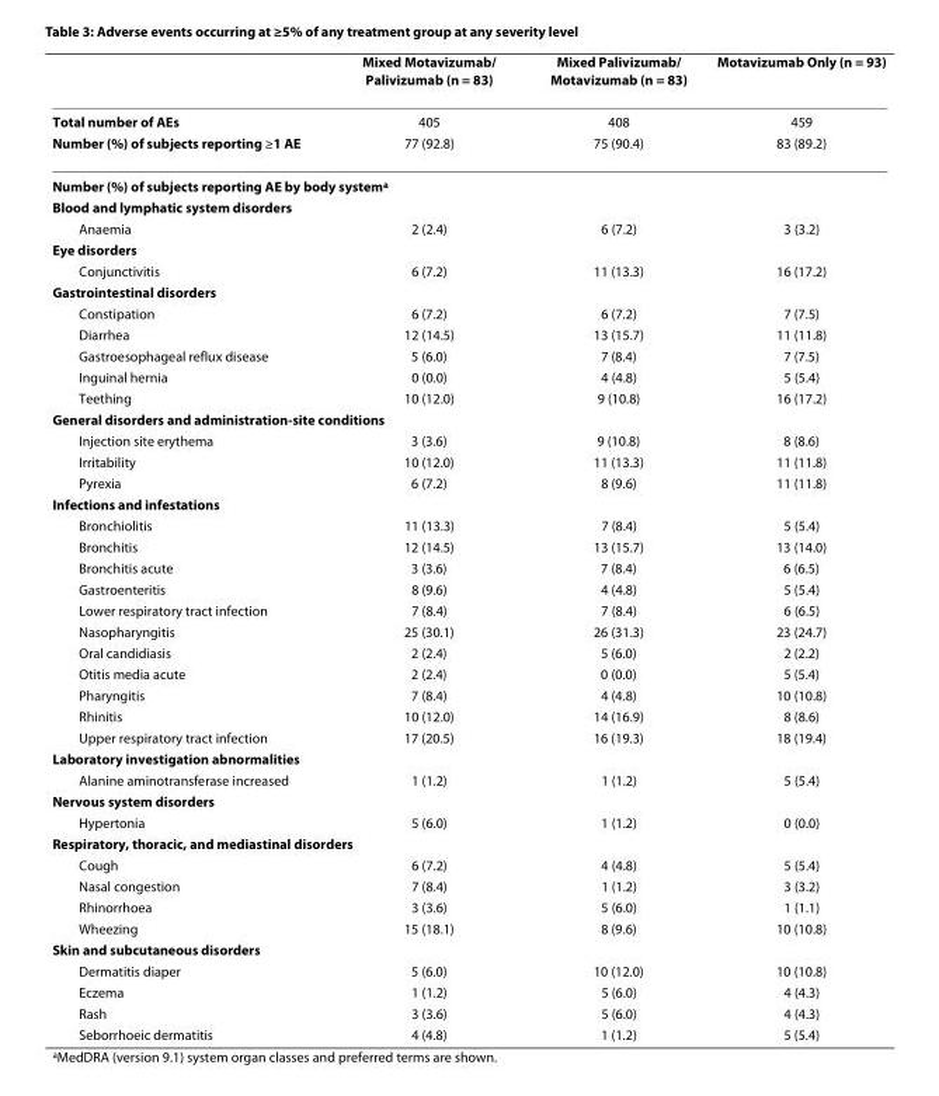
<table><thead><tr><td></td><td>Mixed Motavizumab/ Palivizumab (n = 83)</td><td>Mixed Palivizumab/ Motavizumab (n = 83)</td><td>Motavizumab Only (n = 93)</td></tr></thead><tbody><tr><td>Total number of AEs</td><td>405</td><td>408</td><td>459</td></tr><tr><td>Number (%) of subjects reporting ≥1 AE</td><td>77 (92.8)</td><td>75 (90.4)</td><td>83 (89.2)</td></tr><tr><td colspan="4">Number (%) of subjects reporting AE by body system<sup>a</sup></td></tr><tr><td colspan="4">Blood and lymphatic system disorders</td></tr><tr><td>Anaemia</td><td>2 (2.4)</td><td>6 (7.2)</td><td>3 (3.2)</td></tr><tr><td colspan="4">Eye disorders</td></tr><tr><td>Conjunctivitis</td><td>6 (7.2)</td><td>11 (13.3)</td><td>16 (17.2)</td></tr><tr><td colspan="4">Gastrointestinal disorders</td></tr><tr><td>Constipation</td><td>6 (7.2)</td><td>6 (7.2)</td><td>7 (7.5)</td></tr><tr><td>Diarrhea</td><td>12 (14.5)</td><td>13 (15.7)</td><td>11 (11.8)</td></tr><tr><td>Gastroesophageal reflux disease</td><td>5 (6.0)</td><td>7 (8.4)</td><td>7 (7.5)</td></tr><tr><td>Inguinal hernia</td><td>0 (0.0)</td><td>4 (4.8)</td><td>5 (5.4)</td></tr><tr><td>Teething</td><td>10 (12.0)</td><td>9 (10.8)</td><td>16 (17.2)</td></tr><tr><td colspan="4">General disorders and administration-site conditions</td></tr><tr><td>Injection site erythema</td><td>3 (3.6)</td><td>9 (10.8)</td><td>8 (8.6)</td></tr><tr><td>Irritability</td><td>10 (12.0)</td><td>11 (13.3)</td><td>11 (11.8)</td></tr><tr><td>Pyrexia</td><td>6 (7.2)</td><td>8 (9.6)</td><td>11 (11.8)</td></tr><tr><td colspan="4">Infections and infestations</td></tr><tr><td>Bronchiolitis</td><td>11 (13.3)</td><td>7 (8.4)</td><td>5 (5.4)</td></tr><tr><td>Bronchitis</td><td>12 (14.5)</td><td>13 (15.7)</td><td>13 (14.0)</td></tr><tr><td>Bronchitis acute</td><td>3 (3.6)</td><td>7 (8.4)</td><td>6 (6.5)</td></tr><tr><td>Gastroenteritis</td><td>8 (9.6)</td><td>4 (4.8)</td><td>5 (5.4)</td></tr><tr><td>Lower respiratory tract infection</td><td>7 (8.4)</td><td>7 (8.4)</td><td>6 (6.5)</td></tr><tr><td>Nasopharyngitis</td><td>25 (30.1)</td><td>26 (31.3)</td><td>23 (24.7)</td></tr><tr><td>Oral candidiasis</td><td>2 (2.4)</td><td>5 (6.0)</td><td>2 (2.2)</td></tr><tr><td>Otitis media acute</td><td>2 (2.4)</td><td>0 (0.0)</td><td>5 (5.4)</td></tr><tr><td>Pharyngitis</td><td>7 (8.4)</td><td>4 (4.8)</td><td>10 (10.8)</td></tr><tr><td>Rhinitis</td><td>10 (12.0)</td><td>14 (16.9)</td><td>8 (8.6)</td></tr><tr><td>Upper respiratory tract infection</td><td>17 (20.5)</td><td>16 (19.3)</td><td>18 (19.4)</td></tr><tr><td colspan="4">Laboratory investigation abnormalities</td></tr><tr><td>Alanine aminotransferase increased</td><td>1 (1.2)</td><td>1 (1.2)</td><td>5 (5.4)</td></tr><tr><td colspan="4">Nervous system disorders</td></tr><tr><td>Hypertonia</td><td>5 (6.0)</td><td>1 (1.2)</td><td>0 (0.0)</td></tr><tr><td colspan="4">Respiratory, thoracic, and mediastinal disorders</td></tr><tr><td>Cough</td><td>6 (7.2)</td><td>4 (4.8)</td><td>5 (5.4)</td></tr><tr><td>Nasal congestion</td><td>7 (8.4)</td><td>1 (1.2)</td><td>3 (3.2)</td></tr><tr><td>Rhinorrhoea</td><td>3 (3.6)</td><td>5 (6.0)</td><td>1 (1.1)</td></tr><tr><td>Wheezing</td><td>15 (18.1)</td><td>8 (9.6)</td><td>10 (10.8)</td></tr><tr><td colspan="4">Skin and subcutaneous disorders</td></tr><tr><td>Dermatitis diaper</td><td>5 (6.0)</td><td>10 (12.0)</td><td>10 (10.8)</td></tr><tr><td>Eczema</td><td>1 (1.2)</td><td>5 (6.0)</td><td>4 (4.3)</td></tr><tr><td>Rash</td><td>3 (3.6)</td><td>5 (6.0)</td><td>4 (4.3)</td></tr><tr><td>Seborrhoeic dermatitis</td><td>4 (4.8)</td><td>1 (1.2)</td><td>5 (5.4)</td></tr></tbody></table>